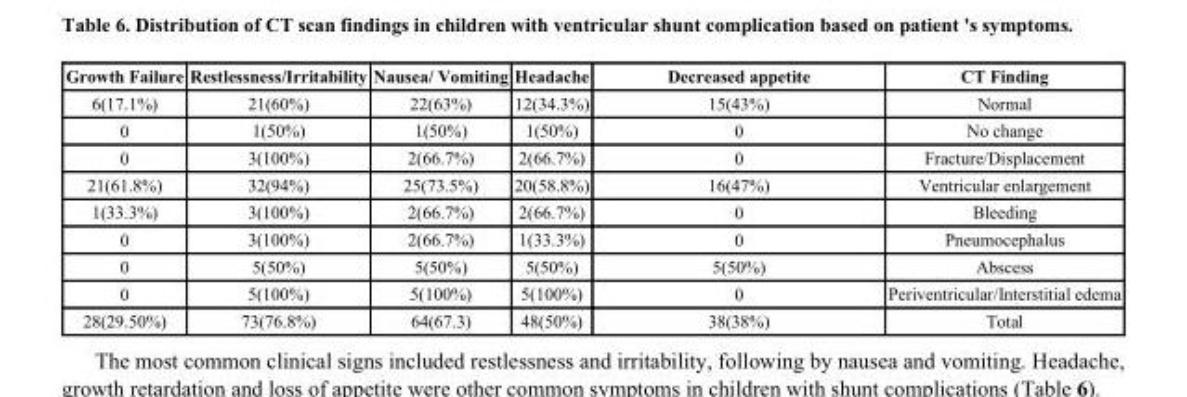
<table><thead><tr><td>Growth Failure</td><td>Restlessness/Irritability</td><td>Nausea/ Vomiting</td><td>Headache</td><td>Decreased appetite</td><td>CT Finding</td></tr></thead><tbody><tr><td>6(17.1%)</td><td>21(60%)</td><td>22(63%)</td><td>12(34.3%)</td><td>15(43%)</td><td>Normal</td></tr><tr><td>0</td><td>1(50%)</td><td>1(50%)</td><td>1(50%)</td><td>0</td><td>No change</td></tr><tr><td>0</td><td>3(100%)</td><td>2(66.7%)</td><td>2(66.7%)</td><td>0</td><td>Fracture/Displacement</td></tr><tr><td>21(61.8%)</td><td>32(94%)</td><td>25(73.5%)</td><td>20(58.8%)</td><td>16(47%)</td><td>Ventricular enlargement</td></tr><tr><td>1(33.3%)</td><td>3(100%)</td><td>2(66.7%)</td><td>2(66.7%)</td><td>0</td><td>Bleeding</td></tr><tr><td>0</td><td>3(100%)</td><td>2(66.7%)</td><td>1(33.3%)</td><td>0</td><td>Pneumocephalus</td></tr><tr><td>0</td><td>5(50%)</td><td>5(50%)</td><td>5(50%)</td><td>5(50%)</td><td>Abscess</td></tr><tr><td>0</td><td>5(100%)</td><td>5(100%)</td><td>5(100%)</td><td>0</td><td>Periventricular/Interstitial edema</td></tr><tr><td>28(29.50%)</td><td>73(76.8%)</td><td>64(67.3)</td><td>48(50%)</td><td>38(38%)</td><td>Total</td></tr></tbody></table>